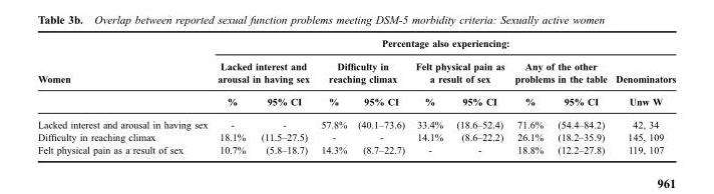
<table><thead><tr><td rowspan="3">Women</td><td colspan="9">Percentage also experiencing:</td></tr><tr><td colspan="2">Lacked interest and arousal in having sex</td><td colspan="2">Difficulty in reaching climax</td><td colspan="2">Felt physical pain as a result of sex</td><td colspan="2">Any of the other problems in the table</td><td rowspan="2">Denominators Unw W</td></tr><tr><td>%</td><td>95% CI</td><td>%</td><td>95% CI</td><td>%</td><td>95% CI</td><td>%</td><td>95% CI</td></tr></thead><tbody><tr><td>Lacked interest and arousal in having sex</td><td>-</td><td>-</td><td>57.8%</td><td>(40.1–73.6)</td><td>33.4%</td><td>(18.6–52.4)</td><td>71.6%</td><td>(54.4–84.2)</td><td>42, 34</td></tr><tr><td>Difficulty in reaching climax</td><td>18.1%</td><td>(11.5–27.5)</td><td>-</td><td>-</td><td>14.1%</td><td>(8.6–22.2)</td><td>26.1%</td><td>(18.2–35.9)</td><td>145, 109</td></tr><tr><td>Felt physical pain as a result of sex</td><td>10.7%</td><td>(5.8–18.7)</td><td>14.3%</td><td>(8.7–22.7)</td><td>-</td><td>-</td><td>18.8%</td><td>(12.2–27.8)</td><td>119, 107</td></tr></tbody></table>